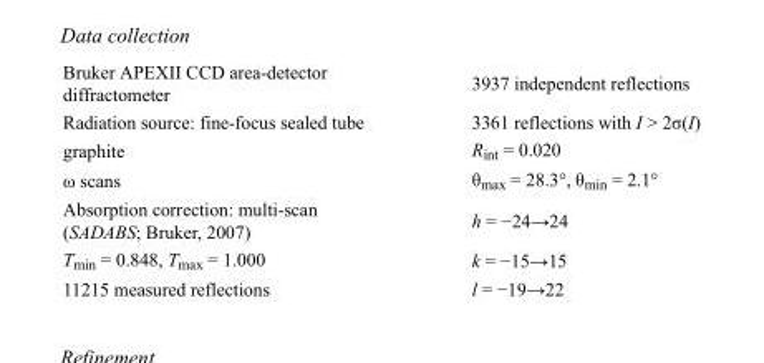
<table><tbody><tr><td>Bruker APEXII CCD area-detector diffractometer</td><td>3937 independent reflections</td></tr><tr><td>Radiation source: fine-focus sealed tube</td><td>3361 reflections with I &gt; 2σ(I)</td></tr><tr><td>graphite</td><td>R<sub>int</sub> = 0.020</td></tr><tr><td>ω scans</td><td>θ<sub>max</sub> = 28.3°, θ<sub>min</sub> = 2.1°</td></tr><tr><td>Absorption correction: multi-scan (SADABS; Bruker, 2007)</td><td>h = −24→24</td></tr><tr><td>T<sub>min</sub> = 0.848, T<sub>max</sub> = 1.000</td><td>k = −15→15</td></tr><tr><td>11215 measured reflections</td><td>l = −19→22</td></tr></tbody></table>